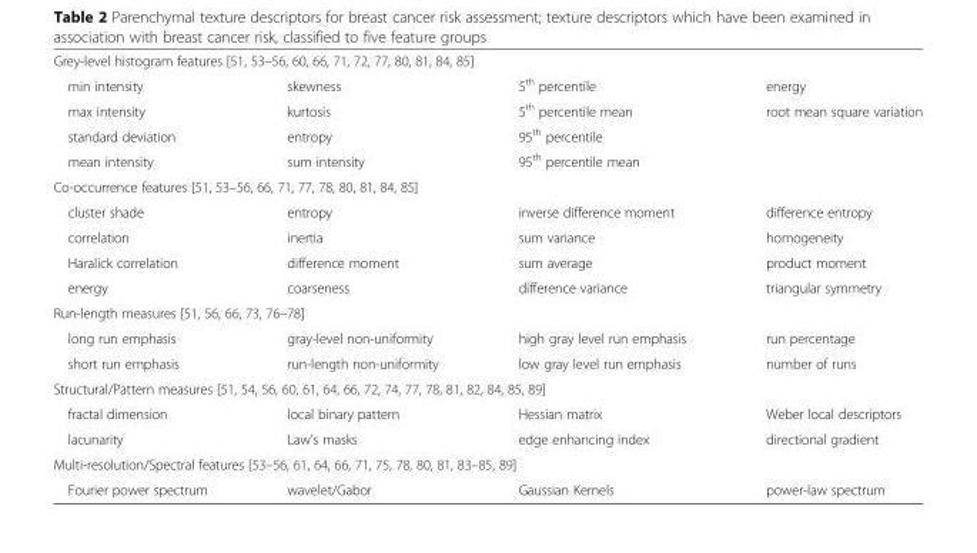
<table><tbody><tr><td colspan="4">Grey-level histogram features [51, 53–56, 60, 66, 71, 72, 77, 80, 81, 84, 85]</td></tr><tr><td>min intensity</td><td>skewness</td><td>5<sup>th</sup> percentile</td><td>energy</td></tr><tr><td>max intensity</td><td>kurtosis</td><td>5<sup>th</sup> percentile mean</td><td>root mean square variation</td></tr><tr><td>standard deviation</td><td>entropy</td><td>95<sup>th</sup> percentile</td><td></td></tr><tr><td>mean intensity</td><td>sum intensity</td><td>95<sup>th</sup> percentile mean</td><td></td></tr><tr><td colspan="4">Co-occurrence features [51, 53–56, 66, 71, 77, 78, 80, 81, 84, 85]</td></tr><tr><td>cluster shade</td><td>entropy</td><td>inverse difference moment</td><td>difference entropy</td></tr><tr><td>correlation</td><td>inertia</td><td>sum variance</td><td>homogeneity</td></tr><tr><td>Haralick correlation</td><td>difference moment</td><td>sum average</td><td>product moment</td></tr><tr><td>energy</td><td>coarseness</td><td>difference variance</td><td>triangular symmetry</td></tr><tr><td colspan="4">Run-length measures [51, 56, 66, 73, 76–78]</td></tr><tr><td>long run emphasis</td><td>gray-level non-uniformity</td><td>high gray level run emphasis</td><td>run percentage</td></tr><tr><td>short run emphasis</td><td>run-length non-uniformity</td><td>low gray level run emphasis</td><td>number of runs</td></tr><tr><td colspan="4">Structural/Pattern measures [51, 54, 56, 60, 61, 64, 66, 72, 74, 77, 78, 81, 82, 84, 85, 89]</td></tr><tr><td>fractal dimension</td><td>local binary pattern</td><td>Hessian matrix</td><td>Weber local descriptors</td></tr><tr><td>lacunarity</td><td>Law’s masks</td><td>edge enhancing index</td><td>directional gradient</td></tr><tr><td colspan="4">Multi-resolution/Spectral features [53–56, 61, 64, 66, 71, 75, 78, 80, 81, 83–85, 89]</td></tr><tr><td>Fourier power spectrum</td><td>wavelet/Gabor</td><td>Gaussian Kernels</td><td>power-law spectrum</td></tr></tbody></table>